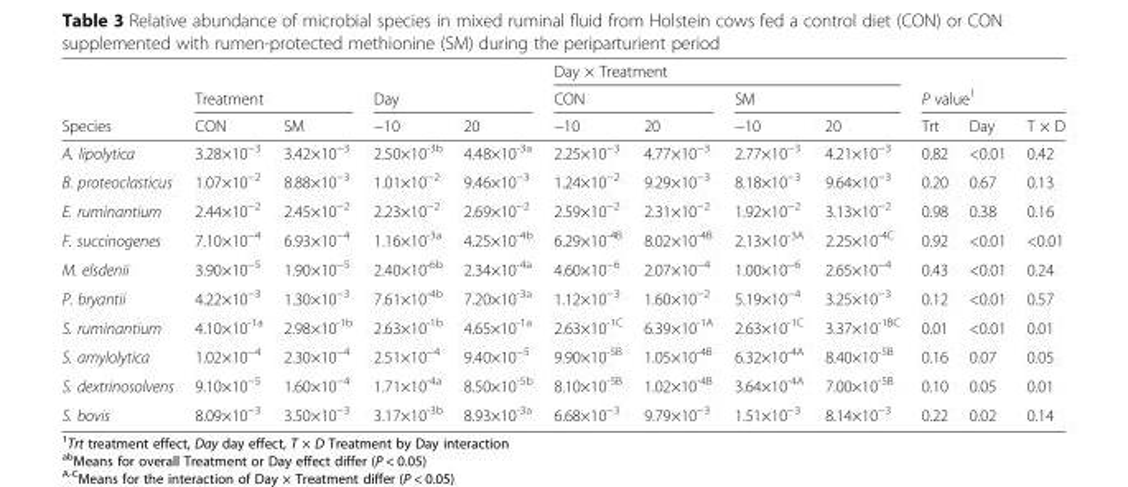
<table><thead><tr><td rowspan="3">Species</td><td></td><td></td><td></td><td></td><td colspan="4">Day × Treatment</td><td></td><td></td><td></td></tr><tr><td colspan="2">Treatment</td><td colspan="2">Day</td><td colspan="2">CON</td><td colspan="2">SM</td><td colspan="3">P value<sup>1</sup></td></tr><tr><td>CON</td><td>SM</td><td>−10</td><td>20</td><td>−10</td><td>20</td><td>−10</td><td>20</td><td>Trt</td><td>Day</td><td>T × D</td></tr></thead><tbody><tr><td>A. lipolytica</td><td>3.28×10<sup>−3</sup></td><td>3.42×10<sup>−3</sup></td><td>2.50×10<sup>-3b</sup></td><td>4.48×10<sup>-3a</sup></td><td>2.25×10<sup>−3</sup></td><td>4.77×10<sup>−3</sup></td><td>2.77×10<sup>−3</sup></td><td>4.21×10<sup>−3</sup></td><td>0.82</td><td>&lt;0.01</td><td>0.42</td></tr><tr><td>B. proteoclasticus</td><td>1.07×10<sup>−2</sup></td><td>8.88×10<sup>−3</sup></td><td>1.01×10<sup>−2</sup></td><td>9.46×10<sup>−3</sup></td><td>1.24×10<sup>−2</sup></td><td>9.29×10<sup>−3</sup></td><td>8.18×10<sup>−3</sup></td><td>9.64×10<sup>−3</sup></td><td>0.20</td><td>0.67</td><td>0.13</td></tr><tr><td>E. ruminantium</td><td>2.44×10<sup>−2</sup></td><td>2.45×10<sup>−2</sup></td><td>2.23×10<sup>−2</sup></td><td>2.69×10<sup>−2</sup></td><td>2.59×10<sup>−2</sup></td><td>2.31×10<sup>−2</sup></td><td>1.92×10<sup>−2</sup></td><td>3.13×10<sup>−2</sup></td><td>0.98</td><td>0.38</td><td>0.16</td></tr><tr><td>F. succinogenes</td><td>7.10×10<sup>−4</sup></td><td>6.93×10<sup>−4</sup></td><td>1.16×10<sup>-3a</sup></td><td>4.25×10<sup>-4b</sup></td><td>6.29×10<sup>-4B</sup></td><td>8.02×10<sup>-4B</sup></td><td>2.13×10<sup>-3A</sup></td><td>2.25×10<sup>-4C</sup></td><td>0.92</td><td>&lt;0.01</td><td>&lt;0.01</td></tr><tr><td>M. elsdenii</td><td>3.90×10<sup>−5</sup></td><td>1.90×10<sup>−5</sup></td><td>2.40×10<sup>-6b</sup></td><td>2.34×10<sup>-4a</sup></td><td>4.60×10<sup>−6</sup></td><td>2.07×10<sup>−4</sup></td><td>1.00×10<sup>−6</sup></td><td>2.65×10<sup>−4</sup></td><td>0.43</td><td>&lt;0.01</td><td>0.24</td></tr><tr><td>P. bryantii</td><td>4.22×10<sup>−3</sup></td><td>1.30×10<sup>−3</sup></td><td>7.61×10<sup>-4b</sup></td><td>7.20×10<sup>-3a</sup></td><td>1.12×10<sup>−3</sup></td><td>1.60×10<sup>−2</sup></td><td>5.19×10<sup>−4</sup></td><td>3.25×10<sup>−3</sup></td><td>0.12</td><td>&lt;0.01</td><td>0.57</td></tr><tr><td>S. ruminantium</td><td>4.10×10<sup>-1a</sup></td><td>2.98×10<sup>-1b</sup></td><td>2.63×10<sup>-1b</sup></td><td>4.65×10<sup>-1a</sup></td><td>2.63×10<sup>-1C</sup></td><td>6.39×10<sup>-1A</sup></td><td>2.63×10<sup>-1C</sup></td><td>3.37×10<sup>-1BC</sup></td><td>0.01</td><td>&lt;0.01</td><td>0.01</td></tr><tr><td>S. amylolytica</td><td>1.02×10<sup>−4</sup></td><td>2.30×10<sup>−4</sup></td><td>2.51×10<sup>−4</sup></td><td>9.40×10<sup>−5</sup></td><td>9.90×10<sup>-5B</sup></td><td>1.05×10<sup>-4B</sup></td><td>6.32×10<sup>-4A</sup></td><td>8.40×10<sup>-5B</sup></td><td>0.16</td><td>0.07</td><td>0.05</td></tr><tr><td>S. dextrinosolvens</td><td>9.10×10<sup>−5</sup></td><td>1.60×10<sup>−4</sup></td><td>1.71×10<sup>-4a</sup></td><td>8.50×10<sup>-5b</sup></td><td>8.10×10<sup>-5B</sup></td><td>1.02×10<sup>-4B</sup></td><td>3.64×10<sup>-4A</sup></td><td>7.00×10<sup>-5B</sup></td><td>0.10</td><td>0.05</td><td>0.01</td></tr><tr><td>S. bovis</td><td>8.09×10<sup>−3</sup></td><td>3.50×10<sup>−3</sup></td><td>3.17×10<sup>-3b</sup></td><td>8.93×10<sup>-3a</sup></td><td>6.68×10<sup>−3</sup></td><td>9.79×10<sup>−3</sup></td><td>1.51×10<sup>−3</sup></td><td>8.14×10<sup>−3</sup></td><td>0.22</td><td>0.02</td><td>0.14</td></tr></tbody></table>